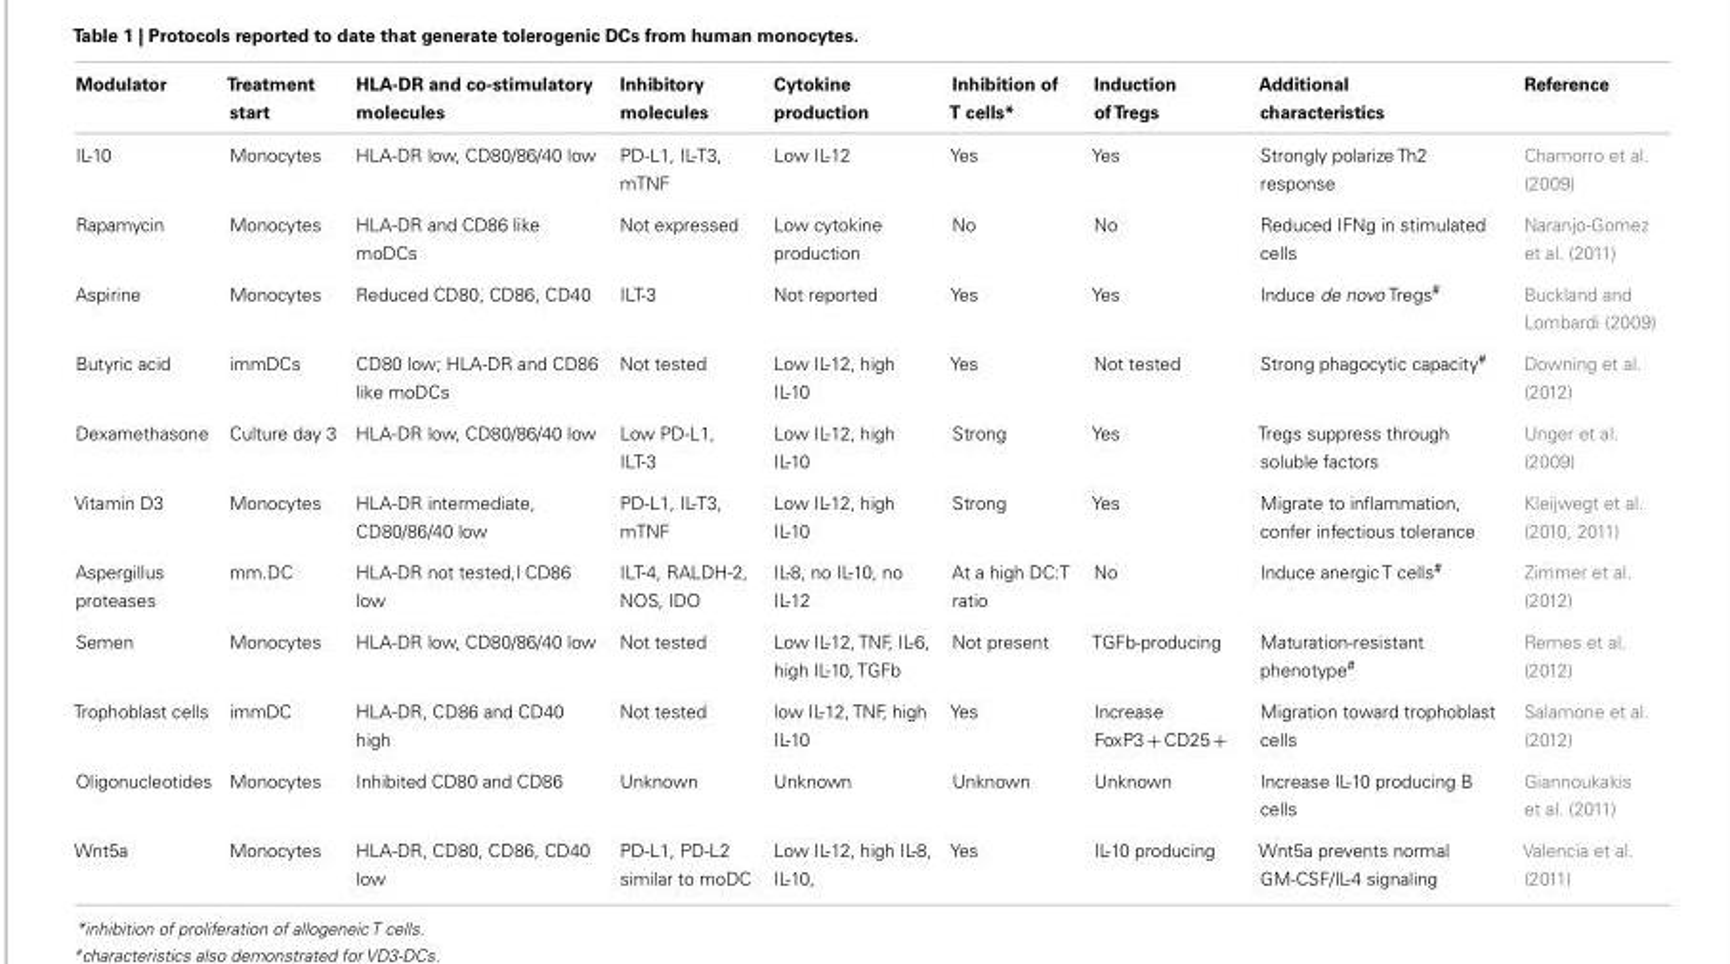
<table><thead><tr><td>Modulator</td><td>Treatment start</td><td>HLA-DR and co-stimulatory molecules</td><td>Inhibitory molecules</td><td>Cytokine production</td><td>Inhibition of T cells*</td><td>Induction ofTregs</td><td>Additional characteristics</td><td>Reference</td></tr></thead><tbody><tr><td>IL-10</td><td>Monocytes</td><td>HLA-DR low, CD80/86/40 low</td><td>PD-L1, IL-T3, mTNF</td><td>Low IL-12</td><td>Yes</td><td>Yes</td><td>Strongly polarize Th2 response</td><td>Chamorro et al. (2009)</td></tr><tr><td>Rapamycin</td><td>Monocytes</td><td>HLA-DR and CD86 like moDCs</td><td>Not expressed</td><td>Low cytokine production</td><td>No</td><td>No</td><td>Reduced IFNg in stimulated cells</td><td>Naranjo-Gomez et al. (2011)</td></tr><tr><td>Aspirine</td><td>Monocytes</td><td>Reduced CD80, CD86, CD40</td><td>ILT-3</td><td>Not reported</td><td>Yes</td><td>Yes</td><td>Induce de novo Tregs<sup>#</sup></td><td>Buckland and Lombardi (2009)</td></tr><tr><td>Butyric acid</td><td>immDCs</td><td>CD80 low; HLA-DR and CD86 like moDCs</td><td>Not tested</td><td>Low IL-12, high IL-10</td><td>Yes</td><td>Not tested</td><td>Strong phagocytic capacity<sup>#</sup></td><td>Downing et al. (2012)</td></tr><tr><td>Dexamethasone</td><td>Culture day 3</td><td>HLA-DR low, CD80/86/40 low</td><td>Low PD-L1, ILT-3</td><td>Low IL-12, high IL-10</td><td>Strong</td><td>Yes</td><td>Tregs suppress through soluble factors</td><td>Unger et al. (2009)</td></tr><tr><td>Vitamin D3</td><td>Monocytes</td><td>HLA-DR intermediate, CD80/86/40 low</td><td>PD-L1, IL-T3, mTNF</td><td>Low IL-12, high IL-10</td><td>Strong</td><td>Yes</td><td>Migrate to inflammation, confer infectious tolerance</td><td>Kleijwegt et al. (2010, 2011)</td></tr><tr><td>Aspergillus proteases</td><td>mm.DC</td><td>HLA-DR not tested,l CD86 low</td><td>ILT-4, RALDH-2, NOS, IDO</td><td>IL-8, no IL-10, no IL-12</td><td>At a high DC:T ratio</td><td>No</td><td>Induce anergic T cells<sup>#</sup></td><td>Zimmer et al. (2012)</td></tr><tr><td>Semen</td><td>Monocytes</td><td>HLA-DR low, CD80/86/40 low</td><td>Not tested</td><td>Low IL-12, TNF, IL-6, high IL-10, TGFb</td><td>Not present</td><td>TGFb-producing</td><td>Maturation-resistant phenotype<sup>#</sup></td><td>Remes et al. (2012)</td></tr><tr><td>Trophoblast cells</td><td>immDC</td><td>HLA-DR, CD86 and CD40 high</td><td>Not tested</td><td>low IL-12, TNF, high IL-10</td><td>Yes</td><td>Increase FoxP3 + CD25 +</td><td>Migration toward trophoblast cells</td><td>Salamone et al. (2012)</td></tr><tr><td>Oligonucleotides</td><td>Monocytes</td><td>Inhibited CD80 and CD86</td><td>Unknown</td><td>Unknown</td><td>Unknown</td><td>Unknown</td><td>Increase IL-10 producing B cells</td><td>Giannoukakis et al. (2011)</td></tr><tr><td>Wnt5a</td><td>Monocytes</td><td>HLA-DR, CD80, CD86, CD40 low</td><td>PD-L1, PD-L2 similar to moDC</td><td>Low IL-12, high IL-8, IL-10,</td><td>Yes</td><td>IL-10 producing</td><td>Wnt5a prevents normal GM-CSF/IL-4 signaling</td><td>Valencia et al. (2011)</td></tr></tbody></table>